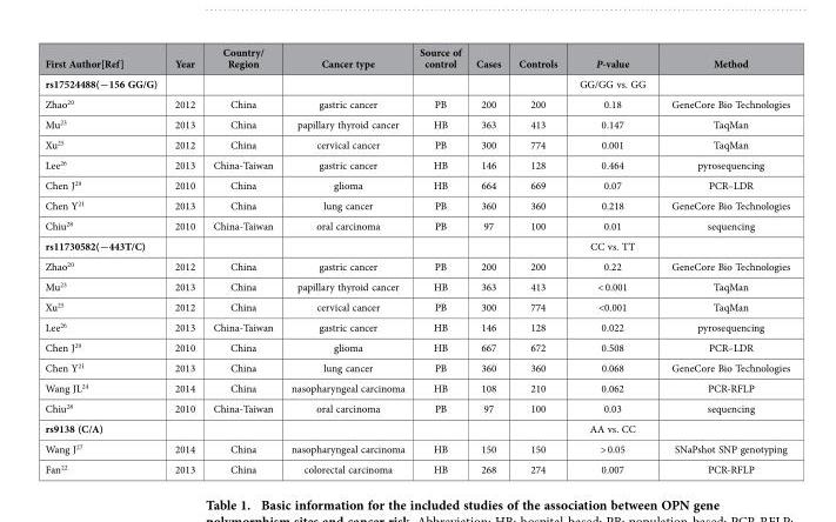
<table><thead><tr><td>First Author[Ref]</td><td>Year</td><td>Country/ Region</td><td>Cancer type</td><td>Source of control</td><td>Cases</td><td>Controls</td><td>P-value</td><td>Method</td></tr></thead><tbody><tr><td>rs17524488(−156 GG/G)</td><td></td><td></td><td></td><td></td><td></td><td></td><td>GG/GG vs. GG</td><td></td></tr><tr><td>Zhao<sup>20</sup></td><td>2012</td><td>China</td><td>gastric cancer</td><td>PB</td><td>200</td><td>200</td><td>0.18</td><td>GeneCore Bio Technologies</td></tr><tr><td>Mu<sup>23</sup></td><td>2013</td><td>China</td><td>papillary thyroid cancer</td><td>HB</td><td>363</td><td>413</td><td>0.147</td><td>TaqMan</td></tr><tr><td>Xu<sup>25</sup></td><td>2012</td><td>China</td><td>cervical cancer</td><td>PB</td><td>300</td><td>774</td><td>0.001</td><td>TaqMan</td></tr><tr><td>Lee<sup>26</sup></td><td>2013</td><td>China-Taiwan</td><td>gastric cancer</td><td>HB</td><td>146</td><td>128</td><td>0.464</td><td>pyrosequencing</td></tr><tr><td>Chen J<sup>29</sup></td><td>2010</td><td>China</td><td>glioma</td><td>HB</td><td>664</td><td>669</td><td>0.07</td><td>PCR–LDR</td></tr><tr><td>Chen Y<sup>21</sup></td><td>2013</td><td>China</td><td>lung cancer</td><td>PB</td><td>360</td><td>360</td><td>0.218</td><td>GeneCore Bio Technologies</td></tr><tr><td>Chiu<sup>28</sup></td><td>2010</td><td>China-Taiwan</td><td>oral carcinoma</td><td>PB</td><td>97</td><td>100</td><td>0.01</td><td>sequencing</td></tr><tr><td>rs11730582(−443T/C)</td><td></td><td></td><td></td><td></td><td></td><td></td><td>CC vs. TT</td><td></td></tr><tr><td>Zhao<sup>20</sup></td><td>2012</td><td>China</td><td>gastric cancer</td><td>PB</td><td>200</td><td>200</td><td>0.22</td><td>GeneCore Bio Technologies</td></tr><tr><td>Mu<sup>23</sup></td><td>2013</td><td>China</td><td>papillary thyroid cancer</td><td>HB</td><td>363</td><td>413</td><td>&lt; 0.001</td><td>TaqMan</td></tr><tr><td>Xu<sup>25</sup></td><td>2012</td><td>China</td><td>cervical cancer</td><td>PB</td><td>300</td><td>774</td><td>&lt;0.001</td><td>TaqMan</td></tr><tr><td>Lee<sup>26</sup></td><td>2013</td><td>China-Taiwan</td><td>gastric cancer</td><td>HB</td><td>146</td><td>128</td><td>0.022</td><td>pyrosequencing</td></tr><tr><td>Chen J<sup>29</sup></td><td>2010</td><td>China</td><td>glioma</td><td>HB</td><td>667</td><td>672</td><td>0.508</td><td>PCR–LDR</td></tr><tr><td>Chen Y<sup>21</sup></td><td>2013</td><td>China</td><td>lung cancer</td><td>PB</td><td>360</td><td>360</td><td>0.068</td><td>GeneCore Bio Technologies</td></tr><tr><td>Wang JL<sup>24</sup></td><td>2014</td><td>China</td><td>nasopharyngeal carcinoma</td><td>HB</td><td>108</td><td>210</td><td>0.062</td><td>PCR-RFLP</td></tr><tr><td>Chiu<sup>28</sup></td><td>2010</td><td>China-Taiwan</td><td>oral carcinoma</td><td>PB</td><td>97</td><td>100</td><td>0.03</td><td>sequencing</td></tr><tr><td>rs9138 (C/A)</td><td></td><td></td><td></td><td></td><td></td><td></td><td>AA vs. CC</td><td></td></tr><tr><td>Wang J<sup>27</sup></td><td>2014</td><td>China</td><td>nasopharyngeal carcinoma</td><td>HB</td><td>150</td><td>150</td><td>&gt; 0.05</td><td>SNaPshot SNP genotyping</td></tr><tr><td>Fan<sup>22</sup></td><td>2013</td><td>China</td><td>colorectal carcinoma</td><td>HB</td><td>268</td><td>274</td><td>0.007</td><td>PCR-RFLP</td></tr></tbody></table>